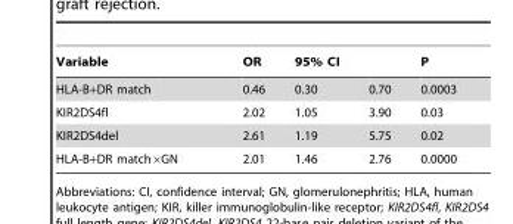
<table><thead><tr><td>Variable</td><td>OR</td><td>95% CI</td><td></td><td>P</td></tr></thead><tbody><tr><td>HLA-B+DR match</td><td>0.46</td><td>0.30</td><td>0.70</td><td>0.0003</td></tr><tr><td>KIR2DS4fl</td><td>2.02</td><td>1.05</td><td>3.90</td><td>0.03</td></tr><tr><td>KIR2DS4del</td><td>2.61</td><td>1.19</td><td>5.75</td><td>0.02</td></tr><tr><td>HLA-B+DR match×GN</td><td>2.01</td><td>1.46</td><td>2.76</td><td>0.0000</td></tr></tbody></table>